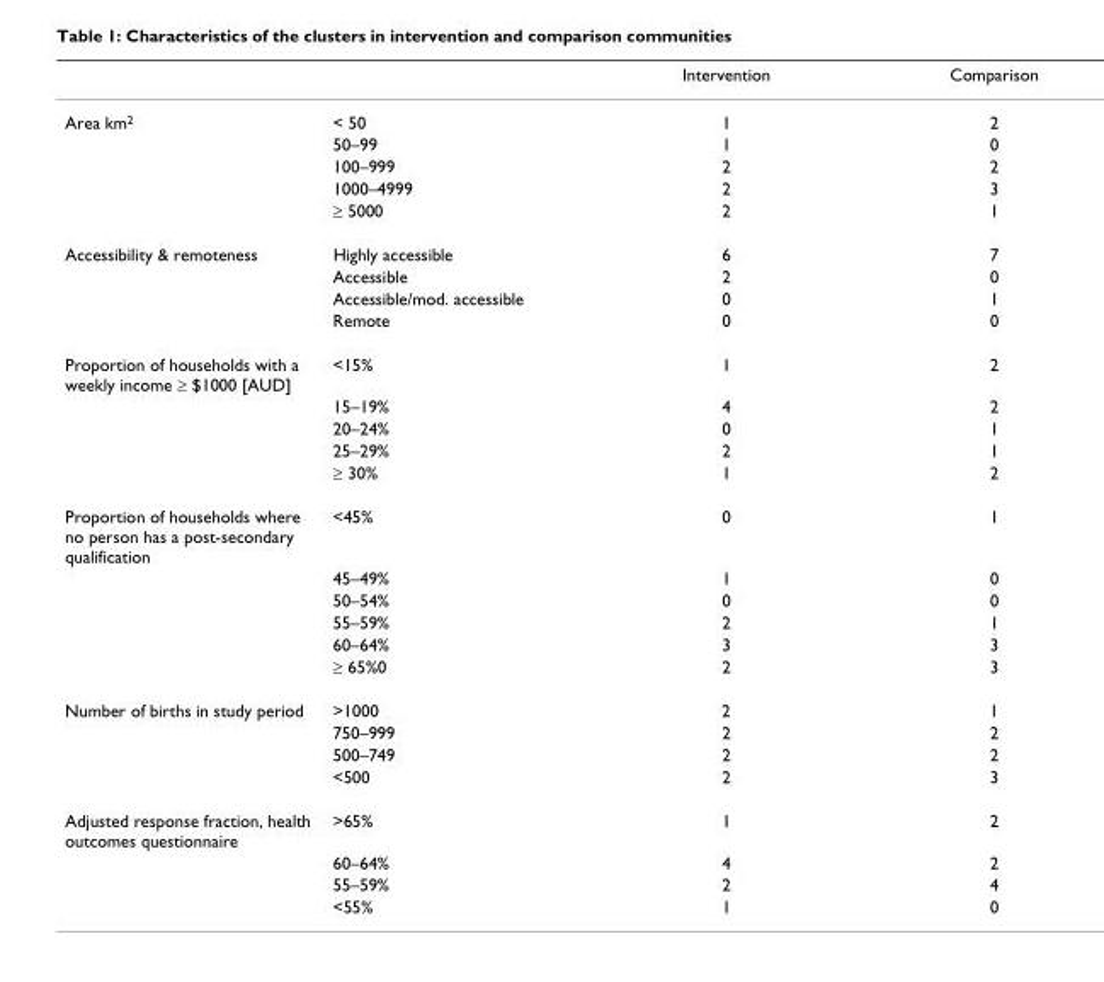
<table><thead><tr><td></td><td></td><td>Intervention</td><td>Comparison</td></tr></thead><tbody><tr><td rowspan="5">Area km2</td><td>&lt; 50</td><td>1</td><td>2</td></tr><tr><td>50–99</td><td>1</td><td>0</td></tr><tr><td>100–999</td><td>2</td><td>2</td></tr><tr><td>1000–4999</td><td>2</td><td>3</td></tr><tr><td>≥ 5000</td><td>2</td><td>1</td></tr><tr><td rowspan="4">Accessibility &amp; remoteness</td><td>Highly accessible</td><td>6</td><td>7</td></tr><tr><td>Accessible</td><td>2</td><td>0</td></tr><tr><td>Accessible/mod. accessible</td><td>0</td><td>1</td></tr><tr><td>Remote</td><td>0</td><td>0</td></tr><tr><td rowspan="5">Proportion of households with a weekly income ≥ $1000 [AUD]</td><td>&lt;15%</td><td>1</td><td>2</td></tr><tr><td>15–19%</td><td>4</td><td>2</td></tr><tr><td>20–24%</td><td>0</td><td>1</td></tr><tr><td>25–29%</td><td>2</td><td>1</td></tr><tr><td>≥ 30%</td><td>1</td><td>2</td></tr><tr><td rowspan="6">Proportion of households where no person has a post-secondary qualification</td><td>&lt;45%</td><td>0</td><td>1</td></tr><tr><td>45–49%</td><td>1</td><td>0</td></tr><tr><td>50–54%</td><td>0</td><td>0</td></tr><tr><td>55–59%</td><td>2</td><td>1</td></tr><tr><td>60–64%</td><td>3</td><td>3</td></tr><tr><td>≥ 65%0</td><td>2</td><td>3</td></tr><tr><td rowspan="4">Number of births in study period</td><td>&gt;1000</td><td>2</td><td>1</td></tr><tr><td>750–999</td><td>2</td><td>2</td></tr><tr><td>500–749</td><td>2</td><td>2</td></tr><tr><td>&lt;500</td><td>2</td><td>3</td></tr><tr><td rowspan="4">Adjusted response fraction, health outcomes questionnaire</td><td>&gt;65%</td><td>1</td><td>2</td></tr><tr><td>60–64%</td><td>4</td><td>2</td></tr><tr><td>55–59%</td><td>2</td><td>4</td></tr><tr><td>&lt;55%</td><td>1</td><td>0</td></tr></tbody></table>